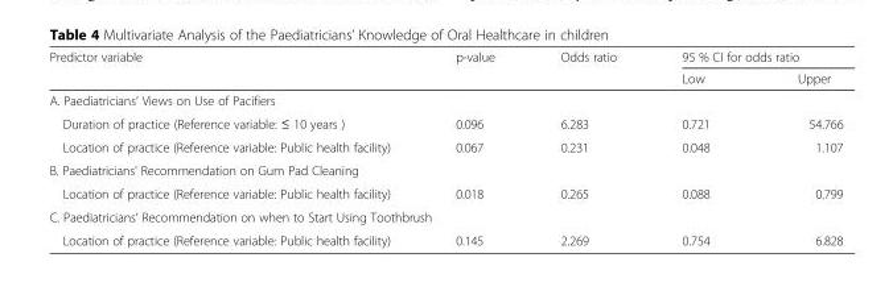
<table><thead><tr><td rowspan="2">Predictor variable</td><td rowspan="2">p-value</td><td rowspan="2">Odds ratio</td><td colspan="2">95 % CI for odds ratio</td></tr><tr><td>Low</td><td>Upper</td></tr></thead><tbody><tr><td colspan="5">A. Paediatricians’ Views on Use of Pacifiers</td></tr><tr><td>Duration of practice (Reference variable: ≤ 10 years )</td><td>0.096</td><td>6.283</td><td>0.721</td><td>54.766</td></tr><tr><td>Location of practice (Reference variable: Public health facility)</td><td>0.067</td><td>0.231</td><td>0.048</td><td>1.107</td></tr><tr><td colspan="5">B. Paediatricians’ Recommendation on Gum Pad Cleaning</td></tr><tr><td>Location of practice (Reference variable: Public health facility)</td><td>0.018</td><td>0.265</td><td>0.088</td><td>0.799</td></tr><tr><td colspan="5">C. Paediatricians’ Recommendation on when to Start Using Toothbrush</td></tr><tr><td>Location of practice (Reference variable: Public health facility)</td><td>0.145</td><td>2.269</td><td>0.754</td><td>6.828</td></tr></tbody></table>